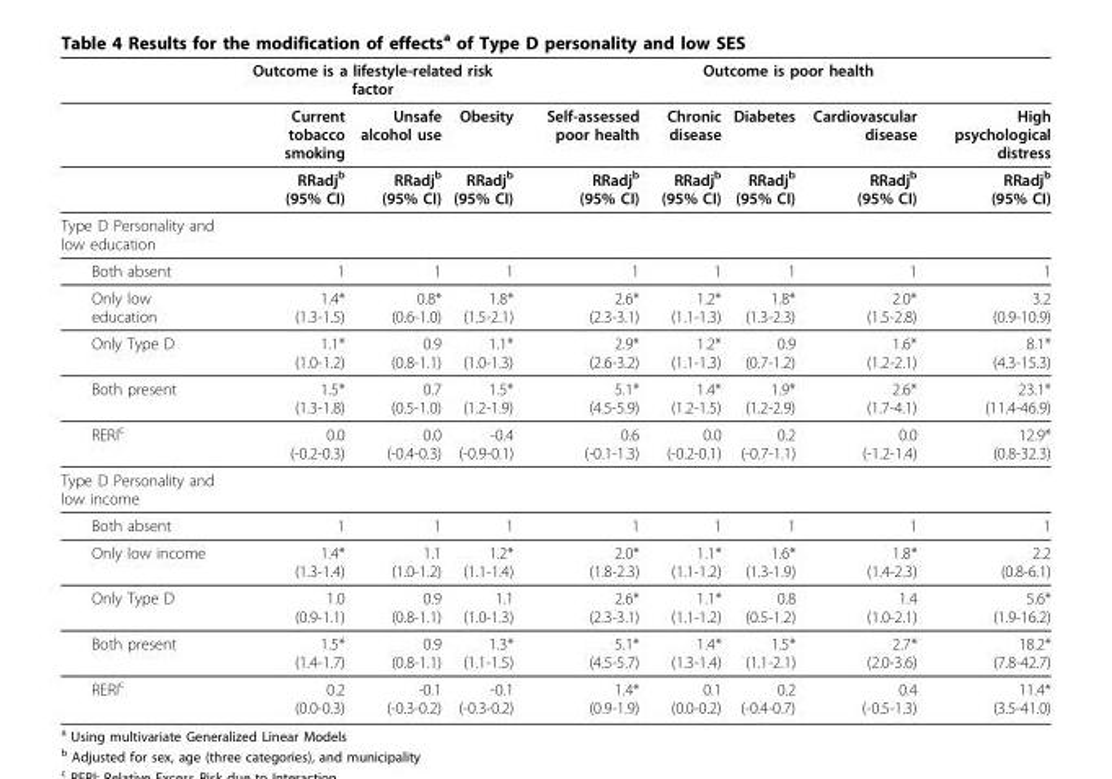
<table><thead><tr><td rowspan="2"></td><td colspan="3">Outcome is a lifestyle-related risk factor</td><td colspan="5">Outcome is poor health</td></tr><tr><td>Current tobacco smoking</td><td>Unsafe alcohol use</td><td>Obesity</td><td>Self-assessed poor health</td><td>Chronic disease</td><td>Diabetes</td><td>Cardiovascular disease</td><td>High psychological distress</td></tr></thead><tbody><tr><td></td><td>RRadjb (95% CI)</td><td>RRadjb (95% CI)</td><td>RRadjb (95% CI)</td><td>RRadjb (95% CI)</td><td>RRadjb (95% CI)</td><td>RRadjb (95% CI)</td><td>RRadjb (95% CI)</td><td>RRadjb (95% CI)</td></tr><tr><td colspan="9">Type D Personality and low education</td></tr><tr><td>Both absent</td><td>1</td><td>1</td><td>1</td><td>1</td><td>1</td><td>1</td><td>1</td><td>1</td></tr><tr><td>Only low education</td><td>1.4* (1.3-1.5)</td><td>0.8* (0.6-1.0)</td><td>1.8* (1.5-2.1)</td><td>2.6* (2.3-3.1)</td><td>1.2* (1.1-1.3)</td><td>1.8* (1.3-2.3)</td><td>2.0* (1.5-2.8)</td><td>3.2 (0.9-10.9)</td></tr><tr><td>Only Type D</td><td>1.1* (1.0-1.2)</td><td>0.9 (0.8-1.1)</td><td>1.1* (1.0-1.3)</td><td>2.9* (2.6-3.2)</td><td>1.2* (1.1-1.3)</td><td>0.9 (0.7-1.2)</td><td>1.6* (1.2-2.1)</td><td>8.1* (4.3-15.3)</td></tr><tr><td>Both present</td><td>1.5* (1.3-1.8)</td><td>0.7 (0.5-1.0)</td><td>1.5* (1.2-1.9)</td><td>5.1* (4.5-5.9)</td><td>1.4* (1.2-1.5)</td><td>1.9* (1.2-2.9)</td><td>2.6* (1.7-4.1)</td><td>23.1* (11.4-46.9)</td></tr><tr><td>RERIc</td><td>0.0 (-0.2-0.3)</td><td>0.0 (-0.4-0.3)</td><td>-0.4 (-0.9-0.1)</td><td>0.6 (-0.1-1.3)</td><td>0.0 (-0.2-0.1)</td><td>0.2 (-0.7-1.1)</td><td>0.0 (-1.2-1.4)</td><td>12.9* (0.8-32.3)</td></tr><tr><td colspan="9">Type D Personality and low income</td></tr><tr><td>Both absent</td><td>1</td><td>1</td><td>1</td><td>1</td><td>1</td><td>1</td><td>1</td><td>1</td></tr><tr><td>Only low income</td><td>1.4* (1.3-1.4)</td><td>1.1 (1.0-1.2)</td><td>1.2* (1.1-1.4)</td><td>2.0* (1.8-2.3)</td><td>1.1* (1.1-1.2)</td><td>1.6* (1.3-1.9)</td><td>1.8* (1.4-2.3)</td><td>2.2 (0.8-6.1)</td></tr><tr><td>Only Type D</td><td>1.0 (0.9-1.1)</td><td>0.9 (0.8-1.1)</td><td>1.1 (1.0-1.3)</td><td>2.6* (2.3-3.1)</td><td>1.1* (1.1-1.2)</td><td>0.8 (0.5-1.2)</td><td>1.4 (1.0-2.1)</td><td>5.6* (1.9-16.2)</td></tr><tr><td>Both present</td><td>1.5* (1.4-1.7)</td><td>0.9 (0.8-1.1)</td><td>1.3* (1.1-1.5)</td><td>5.1* (4.5-5.7)</td><td>1.4* (1.3-1.4)</td><td>1.5* (1.1-2.1)</td><td>2.7* (2.0-3.6)</td><td>18.2* (7.8-42.7)</td></tr><tr><td>RERIc</td><td>0.2 (0.0-0.3)</td><td>-0.1 (-0.3-0.2)</td><td>-0.1 (-0.3-0.2)</td><td>1.4* (0.9-1.9)</td><td>0.1 (0.0-0.2)</td><td>0.2 (-0.4-0.7)</td><td>0.4 (-0.5-1.3)</td><td>11.4* (3.5-41.0)</td></tr></tbody></table>